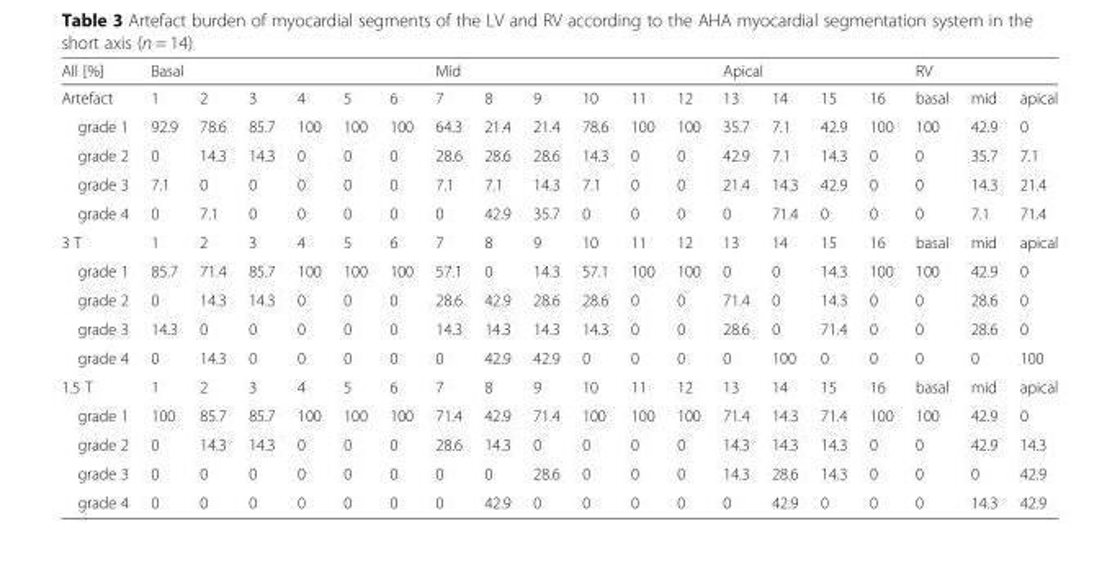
<table><thead><tr><td rowspan="2">All [%] Artefact</td><td colspan="6">Basal</td><td colspan="6">Mid</td><td colspan="4">Apical</td><td colspan="3">RV</td></tr><tr><td>1</td><td>2</td><td>3</td><td>4</td><td>5</td><td>6</td><td>7</td><td>8</td><td>9</td><td>10</td><td>11</td><td>12</td><td>13</td><td>14</td><td>15</td><td>16</td><td>basal</td><td>mid</td><td>apical</td></tr></thead><tbody><tr><td>grade 1</td><td>92.9</td><td>78.6</td><td>85.7</td><td>100</td><td>100</td><td>100</td><td>64.3</td><td>21.4</td><td>21.4</td><td>78.6</td><td>100</td><td>100</td><td>35.7</td><td>7.1</td><td>42.9</td><td>100</td><td>100</td><td>42.9</td><td>0</td></tr><tr><td>grade 2</td><td>0</td><td>14.3</td><td>14.3</td><td>0</td><td>0</td><td>0</td><td>28.6</td><td>28.6</td><td>28.6</td><td>14.3</td><td>0</td><td>0</td><td>42.9</td><td>7.1</td><td>14.3</td><td>0</td><td>0</td><td>35.7</td><td>7.1</td></tr><tr><td>grade 3</td><td>7.1</td><td>0</td><td>0</td><td>0</td><td>0</td><td>0</td><td>7.1</td><td>7.1</td><td>14.3</td><td>7.1</td><td>0</td><td>0</td><td>21.4</td><td>14.3</td><td>42.9</td><td>0</td><td>0</td><td>14.3</td><td>21.4</td></tr><tr><td>grade 4</td><td>0</td><td>7.1</td><td>0</td><td>0</td><td>0</td><td>0</td><td>0</td><td>42.9</td><td>35.7</td><td>0</td><td>0</td><td>0</td><td>0</td><td>71.4</td><td>0</td><td>0</td><td>0</td><td>7.1</td><td>71.4</td></tr><tr><td>3 T</td><td>1</td><td>2</td><td>3</td><td>4</td><td>5</td><td>6</td><td>7</td><td>8</td><td>9</td><td>10</td><td>11</td><td>12</td><td>13</td><td>14</td><td>15</td><td>16</td><td>basal</td><td>mid</td><td>apical</td></tr><tr><td>grade 1</td><td>85.7</td><td>71.4</td><td>85.7</td><td>100</td><td>100</td><td>100</td><td>57.1</td><td>0</td><td>14.3</td><td>57.1</td><td>100</td><td>100</td><td>0</td><td>0</td><td>14.3</td><td>100</td><td>100</td><td>42.9</td><td>0</td></tr><tr><td>grade 2</td><td>0</td><td>14.3</td><td>14.3</td><td>0</td><td>0</td><td>0</td><td>28.6</td><td>42.9</td><td>28.6</td><td>28.6</td><td>0</td><td>0</td><td>71.4</td><td>0</td><td>14.3</td><td>0</td><td>0</td><td>28.6</td><td>0</td></tr><tr><td>grade 3</td><td>14.3</td><td>0</td><td>0</td><td>0</td><td>0</td><td>0</td><td>14.3</td><td>14.3</td><td>14.3</td><td>14.3</td><td>0</td><td>0</td><td>28.6</td><td>0</td><td>71.4</td><td>0</td><td>0</td><td>28.6</td><td>0</td></tr><tr><td>grade 4</td><td>0</td><td>14.3</td><td>0</td><td>0</td><td>0</td><td>0</td><td>0</td><td>42.9</td><td>42.9</td><td>0</td><td>0</td><td>0</td><td>0</td><td>100</td><td>0</td><td>0</td><td>0</td><td>0</td><td>100</td></tr><tr><td>1.5 T</td><td>1</td><td>2</td><td>3</td><td>4</td><td>5</td><td>6</td><td>7</td><td>8</td><td>9</td><td>10</td><td>11</td><td>12</td><td>13</td><td>14</td><td>15</td><td>16</td><td>basal</td><td>mid</td><td>apical</td></tr><tr><td>grade 1</td><td>100</td><td>85.7</td><td>85.7</td><td>100</td><td>100</td><td>100</td><td>71.4</td><td>42.9</td><td>71.4</td><td>100</td><td>100</td><td>100</td><td>71.4</td><td>14.3</td><td>71.4</td><td>100</td><td>100</td><td>42.9</td><td>0</td></tr><tr><td>grade 2</td><td>0</td><td>14.3</td><td>14.3</td><td>0</td><td>0</td><td>0</td><td>28.6</td><td>14.3</td><td>0</td><td>0</td><td>0</td><td>0</td><td>14.3</td><td>14.3</td><td>14.3</td><td>0</td><td>0</td><td>42.9</td><td>14.3</td></tr><tr><td>grade 3</td><td>0</td><td>0</td><td>0</td><td>0</td><td>0</td><td>0</td><td>0</td><td>0</td><td>28.6</td><td>0</td><td>0</td><td>0</td><td>14.3</td><td>28.6</td><td>14.3</td><td>0</td><td>0</td><td>0</td><td>42.9</td></tr><tr><td>grade 4</td><td>0</td><td>0</td><td>0</td><td>0</td><td>0</td><td>0</td><td>0</td><td>42.9</td><td>0</td><td>0</td><td>0</td><td>0</td><td>0</td><td>42.9</td><td>0</td><td>0</td><td>0</td><td>14.3</td><td>42.9</td></tr></tbody></table>